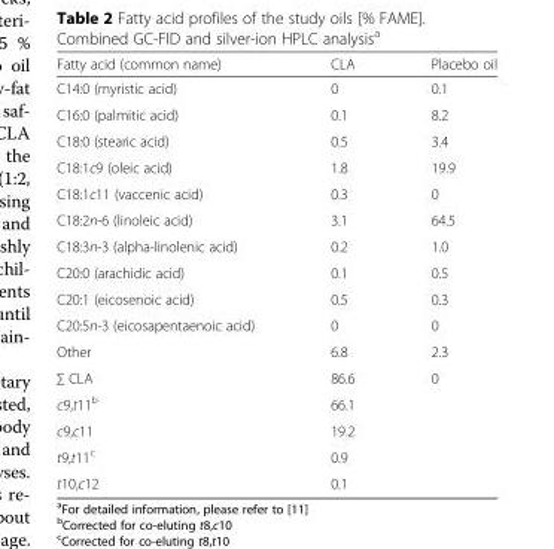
<table><thead><tr><td>Fatty acid (common name)</td><td>CLA</td><td>Placebo oil</td></tr></thead><tbody><tr><td>C14:0 (myristic acid)</td><td>0</td><td>0.1</td></tr><tr><td>C16:0 (palmitic acid)</td><td>0.1</td><td>8.2</td></tr><tr><td>C18:0 (stearic acid)</td><td>0.5</td><td>3.4</td></tr><tr><td>C18:1c9 (oleic acid)</td><td>1.8</td><td>19.9</td></tr><tr><td>C18:1c11 (vaccenic acid)</td><td>0.3</td><td>0</td></tr><tr><td>C18:2n-6 (linoleic acid)</td><td>3.1</td><td>64.5</td></tr><tr><td>C18:3n-3 (alpha-linolenic acid)</td><td>0.2</td><td>1.0</td></tr><tr><td>C20:0 (arachidic acid)</td><td>0.1</td><td>0.5</td></tr><tr><td>C20:1 (eicosenoic acid)</td><td>0.5</td><td>0.3</td></tr><tr><td>C20:5n-3 (eicosapentaenoic acid)</td><td>0</td><td>0</td></tr><tr><td>Other</td><td>6.8</td><td>2.3</td></tr><tr><td>∑ CLA</td><td>86.6</td><td>0</td></tr><tr><td>c9,t11<sup>b</sup></td><td>66.1</td><td></td></tr><tr><td>c9,c11</td><td>19.2</td><td></td></tr><tr><td>t9,t11<sup>c</sup></td><td>0.9</td><td></td></tr><tr><td>t10,c12</td><td>0.1</td><td></td></tr></tbody></table>